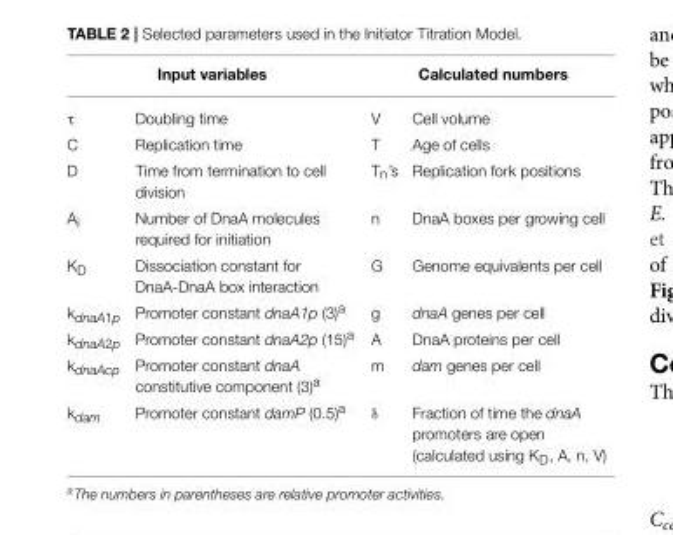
<table><thead><tr><td colspan="2">Input variables</td><td colspan="2">Calculated numbers</td></tr><tr><td>τ</td><td>Doubling time</td><td>V</td><td>Cell volume</td></tr></thead><tbody><tr><td>C</td><td>Replication time</td><td>T</td><td>Age of cells</td></tr><tr><td>D</td><td>Time from termination to cell division</td><td>T<sub>n</sub>’s</td><td>Replication fork positions</td></tr><tr><td>A<sub>i</sub></td><td>Number of DnaA molecules required for initiation</td><td>n</td><td>DnaA boxes per growing cell</td></tr><tr><td>K<sub>D</sub></td><td>Dissociation constant for DnaA-DnaA box interaction</td><td>G</td><td>Genome equivalents per cell</td></tr><tr><td>kdnaA1p</td><td>Promoter constant dnaA1p (3)<sup>a</sup></td><td>g</td><td>dnaA genes per cell</td></tr><tr><td>kdnaA2p</td><td>Promoter constant dnaA2p (15)<sup>a</sup></td><td>A</td><td>DnaA proteins per cell</td></tr><tr><td>kdnaAcp</td><td>Promoter constant dnaA constitutive component (3)<sup>a</sup></td><td>m</td><td>dam genes per cell</td></tr><tr><td>kdam</td><td>Promoter constant damP (0.5)<sup>a</sup></td><td>δ</td><td>Fraction of time the dnaA promoters are open (calculated using K<sub>D</sub>, A, n, V)</td></tr></tbody></table>